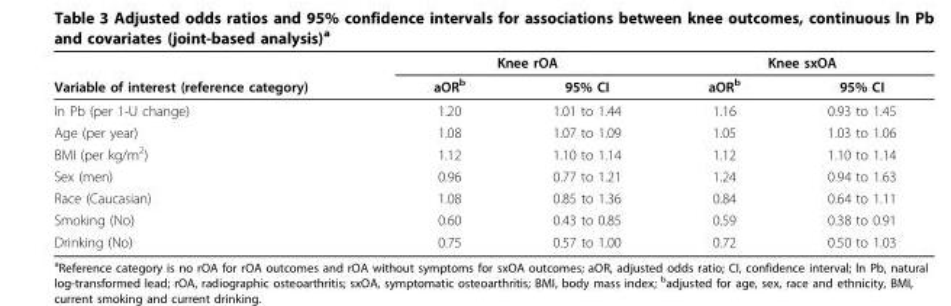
<table><thead><tr><td rowspan="2">Variable of interest (reference category)</td><td colspan="2">Knee rOA</td><td colspan="2">Knee sxOA</td></tr><tr><td>aOR<sup>b</sup></td><td>95% CI</td><td>aOR<sup>b</sup></td><td>95% CI</td></tr></thead><tbody><tr><td>ln Pb (per 1-U change)</td><td>1.20</td><td>1.01 to 1.44</td><td>1.16</td><td>0.93 to 1.45</td></tr><tr><td>Age (per year)</td><td>1.08</td><td>1.07 to 1.09</td><td>1.05</td><td>1.03 to 1.06</td></tr><tr><td>BMI (per kg/m<sup>2</sup>)</td><td>1.12</td><td>1.10 to 1.14</td><td>1.12</td><td>1.10 to 1.14</td></tr><tr><td>Sex (men)</td><td>0.96</td><td>0.77 to 1.21</td><td>1.24</td><td>0.94 to 1.63</td></tr><tr><td>Race (Caucasian)</td><td>1.08</td><td>0.85 to 1.36</td><td>0.84</td><td>0.64 to 1.11</td></tr><tr><td>Smoking (No)</td><td>0.60</td><td>0.43 to 0.85</td><td>0.59</td><td>0.38 to 0.91</td></tr><tr><td>Drinking (No)</td><td>0.75</td><td>0.57 to 1.00</td><td>0.72</td><td>0.50 to 1.03</td></tr></tbody></table>